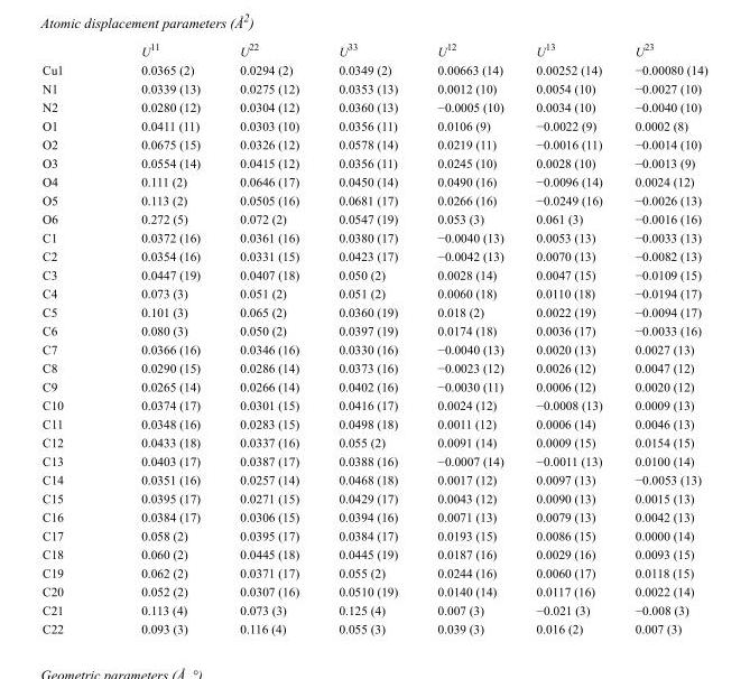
<table><thead><tr><td></td><td>U<sup>11</sup></td><td>U<sup>22</sup></td><td>U<sup>33</sup></td><td>U<sup>12</sup></td><td>U<sup>13</sup></td><td>U<sup>23</sup></td></tr></thead><tbody><tr><td>Cu1</td><td>0.0365 (2)</td><td>0.0294 (2)</td><td>0.0349 (2)</td><td>0.00663 (14)</td><td>0.00252 (14)</td><td>−0.00080 (14)</td></tr><tr><td>N1</td><td>0.0339 (13)</td><td>0.0275 (12)</td><td>0.0353 (13)</td><td>0.0012 (10)</td><td>0.0054 (10)</td><td>−0.0027 (10)</td></tr><tr><td>N2</td><td>0.0280 (12)</td><td>0.0304 (12)</td><td>0.0360 (13)</td><td>−0.0005 (10)</td><td>0.0034 (10)</td><td>−0.0040 (10)</td></tr><tr><td>O1</td><td>0.0411 (11)</td><td>0.0303 (10)</td><td>0.0356 (11)</td><td>0.0106 (9)</td><td>−0.0022 (9)</td><td>0.0002 (8)</td></tr><tr><td>O2</td><td>0.0675 (15)</td><td>0.0326 (12)</td><td>0.0578 (14)</td><td>0.0219 (11)</td><td>−0.0016 (11)</td><td>−0.0014 (10)</td></tr><tr><td>O3</td><td>0.0554 (14)</td><td>0.0415 (12)</td><td>0.0356 (11)</td><td>0.0245 (10)</td><td>0.0028 (10)</td><td>−0.0013 (9)</td></tr><tr><td>O4</td><td>0.111 (2)</td><td>0.0646 (17)</td><td>0.0450 (14)</td><td>0.0490 (16)</td><td>−0.0096 (14)</td><td>0.0024 (12)</td></tr><tr><td>O5</td><td>0.113 (2)</td><td>0.0505 (16)</td><td>0.0681 (17)</td><td>0.0266 (16)</td><td>−0.0249 (16)</td><td>−0.0026 (13)</td></tr><tr><td>O6</td><td>0.272 (5)</td><td>0.072 (2)</td><td>0.0547 (19)</td><td>0.053 (3)</td><td>0.061 (3)</td><td>−0.0016 (16)</td></tr><tr><td>C1</td><td>0.0372 (16)</td><td>0.0361 (16)</td><td>0.0380 (17)</td><td>−0.0040 (13)</td><td>0.0053 (13)</td><td>−0.0033 (13)</td></tr><tr><td>C2</td><td>0.0354 (16)</td><td>0.0331 (15)</td><td>0.0423 (17)</td><td>−0.0042 (13)</td><td>0.0070 (13)</td><td>−0.0082 (13)</td></tr><tr><td>C3</td><td>0.0447 (19)</td><td>0.0407 (18)</td><td>0.050 (2)</td><td>0.0028 (14)</td><td>0.0047 (15)</td><td>−0.0109 (15)</td></tr><tr><td>C4</td><td>0.073 (3)</td><td>0.051 (2)</td><td>0.051 (2)</td><td>0.0060 (18)</td><td>0.0110 (18)</td><td>−0.0194 (17)</td></tr><tr><td>C5</td><td>0.101 (3)</td><td>0.065 (2)</td><td>0.0360 (19)</td><td>0.018 (2)</td><td>0.0022 (19)</td><td>−0.0094 (17)</td></tr><tr><td>C6</td><td>0.080 (3)</td><td>0.050 (2)</td><td>0.0397 (19)</td><td>0.0174 (18)</td><td>0.0036 (17)</td><td>−0.0033 (16)</td></tr><tr><td>C7</td><td>0.0366 (16)</td><td>0.0346 (16)</td><td>0.0330 (16)</td><td>−0.0040 (13)</td><td>0.0020 (13)</td><td>0.0027 (13)</td></tr><tr><td>C8</td><td>0.0290 (15)</td><td>0.0286 (14)</td><td>0.0373 (16)</td><td>−0.0023 (12)</td><td>0.0026 (12)</td><td>0.0047 (12)</td></tr><tr><td>C9</td><td>0.0265 (14)</td><td>0.0266 (14)</td><td>0.0402 (16)</td><td>−0.0030 (11)</td><td>0.0006 (12)</td><td>0.0020 (12)</td></tr><tr><td>C10</td><td>0.0374 (17)</td><td>0.0301 (15)</td><td>0.0416 (17)</td><td>0.0024 (12)</td><td>−0.0008 (13)</td><td>0.0009 (13)</td></tr><tr><td>C11</td><td>0.0348 (16)</td><td>0.0283 (15)</td><td>0.0498 (18)</td><td>0.0011 (12)</td><td>0.0006 (14)</td><td>0.0046 (13)</td></tr><tr><td>C12</td><td>0.0433 (18)</td><td>0.0337 (16)</td><td>0.055 (2)</td><td>0.0091 (14)</td><td>0.0009 (15)</td><td>0.0154 (15)</td></tr><tr><td>C13</td><td>0.0403 (17)</td><td>0.0387 (17)</td><td>0.0388 (16)</td><td>−0.0007 (14)</td><td>−0.0011 (13)</td><td>0.0100 (14)</td></tr><tr><td>C14</td><td>0.0351 (16)</td><td>0.0257 (14)</td><td>0.0468 (18)</td><td>0.0017 (12)</td><td>0.0097 (13)</td><td>−0.0053 (13)</td></tr><tr><td>C15</td><td>0.0395 (17)</td><td>0.0271 (15)</td><td>0.0429 (17)</td><td>0.0043 (12)</td><td>0.0090 (13)</td><td>0.0015 (13)</td></tr><tr><td>C16</td><td>0.0384 (17)</td><td>0.0306 (15)</td><td>0.0394 (16)</td><td>0.0071 (13)</td><td>0.0079 (13)</td><td>0.0042 (13)</td></tr><tr><td>C17</td><td>0.058 (2)</td><td>0.0395 (17)</td><td>0.0384 (17)</td><td>0.0193 (15)</td><td>0.0086 (15)</td><td>0.0000 (14)</td></tr><tr><td>C18</td><td>0.060 (2)</td><td>0.0445 (18)</td><td>0.0445 (19)</td><td>0.0187 (16)</td><td>0.0029 (16)</td><td>0.0093 (15)</td></tr><tr><td>C19</td><td>0.062 (2)</td><td>0.0371 (17)</td><td>0.055 (2)</td><td>0.0244 (16)</td><td>0.0060 (17)</td><td>0.0118 (15)</td></tr><tr><td>C20</td><td>0.052 (2)</td><td>0.0307 (16)</td><td>0.0510 (19)</td><td>0.0140 (14)</td><td>0.0117 (16)</td><td>0.0022 (14)</td></tr><tr><td>C21</td><td>0.113 (4)</td><td>0.073 (3)</td><td>0.125 (4)</td><td>0.007 (3)</td><td>−0.021 (3)</td><td>−0.008 (3)</td></tr><tr><td>C22</td><td>0.093 (3)</td><td>0.116 (4)</td><td>0.055 (3)</td><td>0.039 (3)</td><td>0.016 (2)</td><td>0.007 (3)</td></tr></tbody></table>